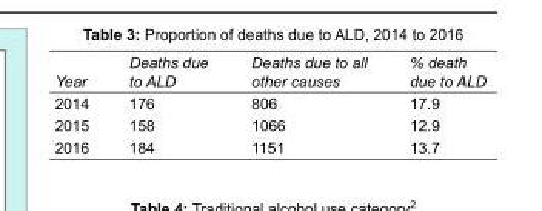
<table><tbody><tr><td>Year</td><td>Deaths due to ALD</td><td>Deaths due to all other causes</td><td>% death due to ALD</td></tr><tr><td>2014</td><td>176</td><td>806</td><td>17.9</td></tr><tr><td>2015</td><td>158</td><td>1066</td><td>12.9</td></tr><tr><td>2016</td><td>184</td><td>1151</td><td>13.7</td></tr></tbody></table>